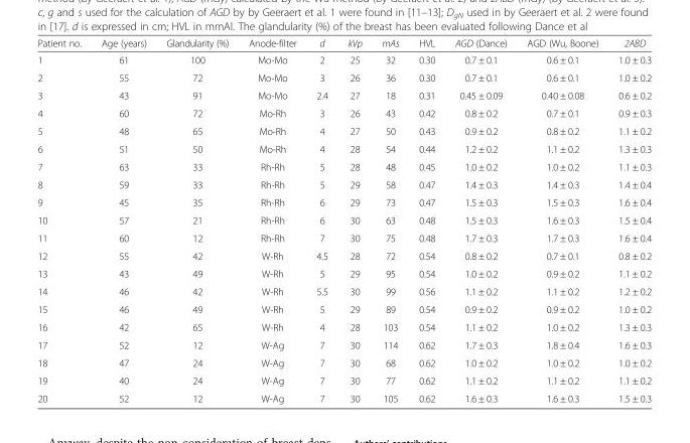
<table><thead><tr><td>Patient no.</td><td>Age (years)</td><td>Glandularity (%)</td><td>Anode-filter</td><td>d</td><td>kVp</td><td>mAs</td><td>HVL</td><td>AGD (Dance)</td><td>AGD (Wu, Boone)</td><td>2ABD</td></tr></thead><tbody><tr><td>1</td><td>61</td><td>100</td><td>Mo-Mo</td><td>2</td><td>25</td><td>32</td><td>0.30</td><td>0.7 ± 0.1</td><td>0.6 ± 0.1</td><td>1.0 ± 0.3</td></tr><tr><td>2</td><td>55</td><td>72</td><td>Mo-Mo</td><td>3</td><td>26</td><td>36</td><td>0.30</td><td>0.7 ± 0.1</td><td>0.6 ± 0.1</td><td>1.0 ± 0.2</td></tr><tr><td>3</td><td>43</td><td>91</td><td>Mo-Mo</td><td>2.4</td><td>27</td><td>18</td><td>0.31</td><td>0.45 ± 0.09</td><td>0.40 ± 0.08</td><td>0.6 ± 0.2</td></tr><tr><td>4</td><td>60</td><td>72</td><td>Mo-Rh</td><td>3</td><td>26</td><td>43</td><td>0.42</td><td>0.8 ± 0.2</td><td>0.7 ± 0.1</td><td>0.9 ± 0.3</td></tr><tr><td>5</td><td>48</td><td>65</td><td>Mo-Rh</td><td>4</td><td>27</td><td>50</td><td>0.43</td><td>0.9 ± 0.2</td><td>0.8 ± 0.2</td><td>1.1 ± 0.2</td></tr><tr><td>6</td><td>51</td><td>50</td><td>Mo-Rh</td><td>4</td><td>28</td><td>54</td><td>0.44</td><td>1.2 ± 0.2</td><td>1.1 ± 0.2</td><td>1.3 ± 0.3</td></tr><tr><td>7</td><td>63</td><td>33</td><td>Rh-Rh</td><td>5</td><td>28</td><td>48</td><td>0.45</td><td>1.0 ± 0.2</td><td>1.0 ± 0.2</td><td>1.1 ± 0.3</td></tr><tr><td>8</td><td>59</td><td>33</td><td>Rh-Rh</td><td>5</td><td>29</td><td>58</td><td>0.47</td><td>1.4 ± 0.3</td><td>1.4 ± 0.3</td><td>1.4 ± 0.4</td></tr><tr><td>9</td><td>45</td><td>35</td><td>Rh-Rh</td><td>6</td><td>29</td><td>73</td><td>0.47</td><td>1.5 ± 0.3</td><td>1.5 ± 0.3</td><td>1.6 ± 0.4</td></tr><tr><td>10</td><td>57</td><td>21</td><td>Rh-Rh</td><td>6</td><td>30</td><td>63</td><td>0.48</td><td>1.5 ± 0.3</td><td>1.6 ± 0.3</td><td>1.5 ± 0.4</td></tr><tr><td>11</td><td>60</td><td>12</td><td>Rh-Rh</td><td>7</td><td>30</td><td>75</td><td>0.48</td><td>1.7 ± 0.3</td><td>1.7 ± 0.3</td><td>1.6 ± 0.4</td></tr><tr><td>12</td><td>55</td><td>42</td><td>W-Rh</td><td>4.5</td><td>28</td><td>72</td><td>0.54</td><td>0.8 ± 0.2</td><td>0.7 ± 0.1</td><td>0.8 ± 0.2</td></tr><tr><td>13</td><td>43</td><td>49</td><td>W-Rh</td><td>5</td><td>29</td><td>95</td><td>0.54</td><td>1.0 ± 0.2</td><td>0.9 ± 0.2</td><td>1.1 ± 0.2</td></tr><tr><td>14</td><td>46</td><td>42</td><td>W-Rh</td><td>5.5</td><td>30</td><td>99</td><td>0.56</td><td>1.1 ± 0.2</td><td>1.1 ± 0.2</td><td>1.2 ± 0.2</td></tr><tr><td>15</td><td>46</td><td>49</td><td>W-Rh</td><td>5</td><td>29</td><td>89</td><td>0.54</td><td>0.9 ± 0.2</td><td>0.9 ± 0.2</td><td>1.0 ± 0.2</td></tr><tr><td>16</td><td>42</td><td>65</td><td>W-Rh</td><td>4</td><td>28</td><td>103</td><td>0.54</td><td>1.1 ± 0.2</td><td>1.0 ± 0.2</td><td>1.3 ± 0.3</td></tr><tr><td>17</td><td>52</td><td>12</td><td>W-Ag</td><td>7</td><td>30</td><td>114</td><td>0.62</td><td>1.7 ± 0.3</td><td>1.8 ± 0.4</td><td>1.6 ± 0.3</td></tr><tr><td>18</td><td>47</td><td>24</td><td>W-Ag</td><td>7</td><td>30</td><td>68</td><td>0.62</td><td>1.0 ± 0.2</td><td>1.0 ± 0.2</td><td>1.0 ± 0.2</td></tr><tr><td>19</td><td>40</td><td>24</td><td>W-Ag</td><td>7</td><td>30</td><td>77</td><td>0.62</td><td>1.1 ± 0.2</td><td>1.1 ± 0.2</td><td>1.1 ± 0.2</td></tr><tr><td>20</td><td>52</td><td>12</td><td>W-Ag</td><td>7</td><td>30</td><td>105</td><td>0.62</td><td>1.6 ± 0.3</td><td>1.6 ± 0.3</td><td>1.5 ± 0.3</td></tr></tbody></table>